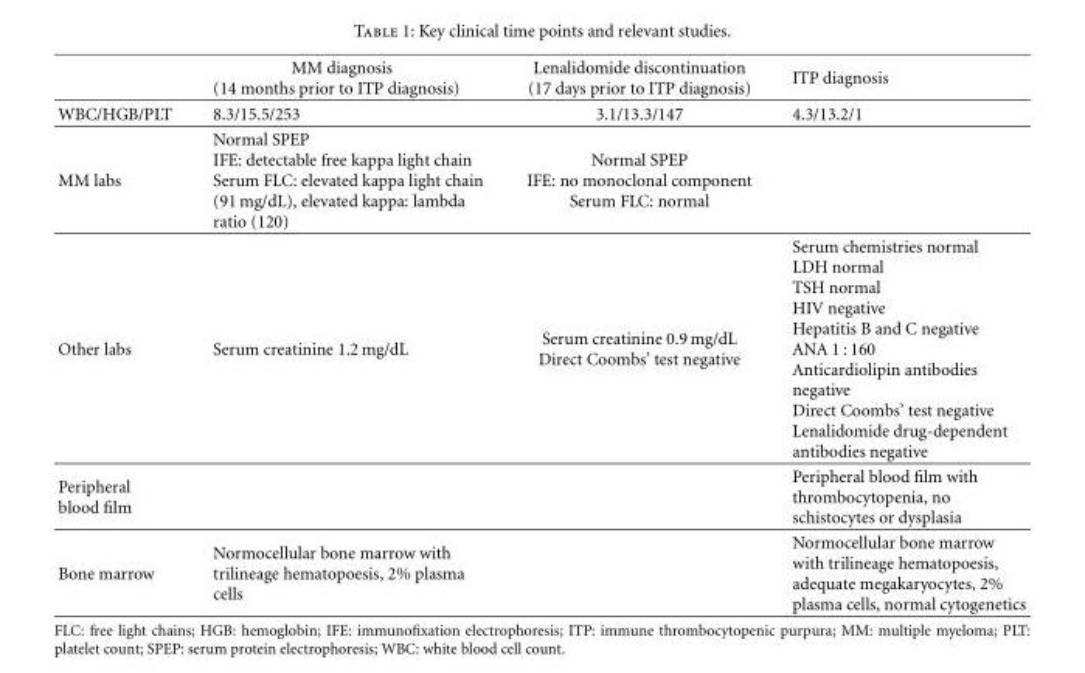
<table><thead><tr><td></td><td>MM diagnosis (14 months prior to ITP diagnosis)</td><td>Lenalidomide discontinuation (17 days prior to ITP diagnosis)</td><td>ITP diagnosis</td></tr></thead><tbody><tr><td>WBC/HGB/PLT</td><td>8.3/15.5/253</td><td>3.1/13.3/147</td><td>4.3/13.2/1</td></tr><tr><td>MM labs</td><td>Normal SPEP IFE: detectable free kappa light chain Serum FLC: elevated kappa light chain (91 mg/dL), elevated kappa: lambda ratio (120)</td><td>Normal SPEP IFE: no monoclonal component Serum FLC: normal</td><td></td></tr><tr><td>Other labs</td><td>Serum creatinine 1.2 mg/dL</td><td>Serum creatinine 0.9 mg/dL Direct Coombs’ test negative</td><td>Serum chemistries normal LDH normal TSH normal HIV negative Hepatitis B and C negative ANA 1 : 160 Anticardiolipin antibodies negative Direct Coombs’ test negative Lenalidomide drug-dependent antibodies negative</td></tr><tr><td>Peripheral blood film</td><td></td><td></td><td>Peripheral blood film with thrombocytopenia, no schistocytes or dysplasia</td></tr><tr><td>Bone marrow</td><td>Normocellular bone marrow with trilineage hematopoesis, 2% plasma cells</td><td></td><td>Normocellular bone marrow with trilineage hematopoesis, adequate megakaryocytes, 2% plasma cells, normal cytogenetics</td></tr></tbody></table>